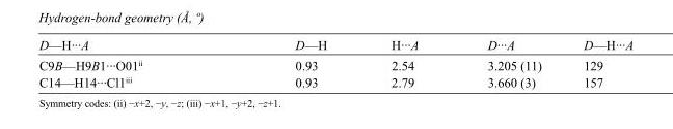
<table><tbody><tr><td>D—H···A</td><td>D—H</td><td>H···A</td><td>D···A</td><td>D—H···A</td></tr><tr><td>C9B—H9B1···O01<sup>ii</sup></td><td>0.93</td><td>2.54</td><td>3.205 (11)</td><td>129</td></tr><tr><td>C14—H14···Cl1<sup>iii</sup></td><td>0.93</td><td>2.79</td><td>3.660 (3)</td><td>157</td></tr></tbody></table>